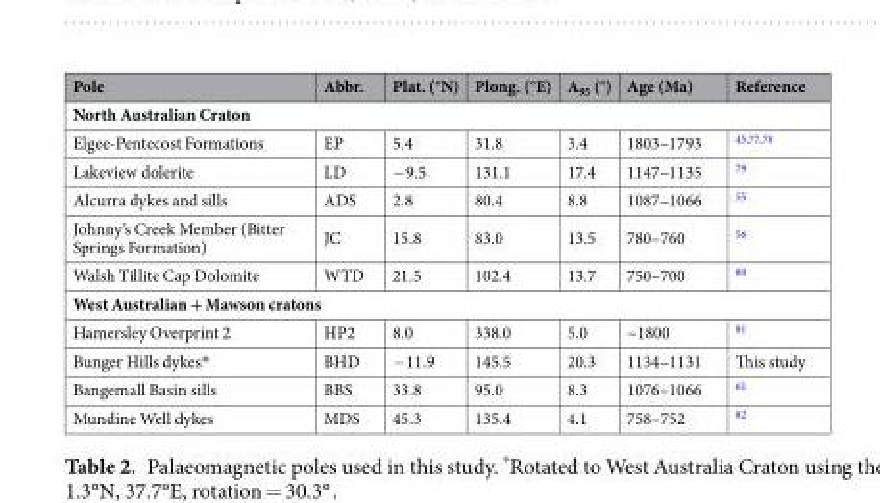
<table><thead><tr><td>Pole</td><td>Abbr.</td><td>Plat. (°N)</td><td>Plong. (°E)</td><td>A<sub>95</sub> (°)</td><td>Age (Ma)</td><td>Reference</td></tr></thead><tbody><tr><td colspan="7">North Australian Craton</td></tr><tr><td>Elgee-Pentecost Formations</td><td>EP</td><td>5.4</td><td>31.8</td><td>3.4</td><td>1803–1793</td><td><sup>45,77,78</sup></td></tr><tr><td>Lakeview dolerite</td><td>LD</td><td>−9.5</td><td>131.1</td><td>17.4</td><td>1147–1135</td><td><sup>79</sup></td></tr><tr><td>Alcurra dykes and sills</td><td>ADS</td><td>2.8</td><td>80.4</td><td>8.8</td><td>1087–1066</td><td><sup>55</sup></td></tr><tr><td>Johnny’s Creek Member (Bitter Springs Formation)</td><td>JC</td><td>15.8</td><td>83.0</td><td>13.5</td><td>780–760</td><td><sup>56</sup></td></tr><tr><td>Walsh Tillite Cap Dolomite</td><td>WTD</td><td>21.5</td><td>102.4</td><td>13.7</td><td>750–700</td><td><sup>80</sup></td></tr><tr><td colspan="7">West Australian + Mawson cratons</td></tr><tr><td>Hamersley Overprint 2</td><td>HP2</td><td>8.0</td><td>338.0</td><td>5.0</td><td>~1800</td><td><sup>81</sup></td></tr><tr><td>Bunger Hills dykes*</td><td>BHD</td><td>−11.9</td><td>145.5</td><td>20.3</td><td>1134–1131</td><td>This study</td></tr><tr><td>Bangemall Basin sills</td><td>BBS</td><td>33.8</td><td>95.0</td><td>8.3</td><td>1076–1066</td><td><sup>61</sup></td></tr><tr><td>Mundine Well dykes</td><td>MDS</td><td>45.3</td><td>135.4</td><td>4.1</td><td>758–752</td><td><sup>82</sup></td></tr></tbody></table>